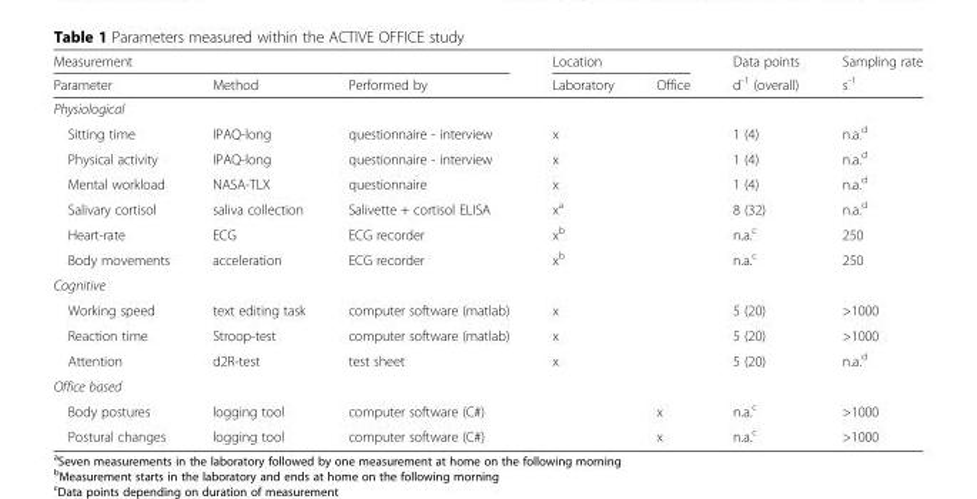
<table><thead><tr><td colspan="3">Measurement</td><td colspan="2">Location</td><td rowspan="2">Data points d<sup>-1</sup> (overall)</td><td rowspan="2">Sampling rate s<sup>-1</sup></td></tr><tr><td>Parameter</td><td>Method</td><td>Performed by</td><td>Laboratory</td><td>Office</td></tr></thead><tbody><tr><td colspan="7">Physiological</td></tr><tr><td>Sitting time</td><td>IPAQ-long</td><td>questionnaire - interview</td><td>x</td><td></td><td>1 (4)</td><td>n.a.<sup>d</sup></td></tr><tr><td>Physical activity</td><td>IPAQ-long</td><td>questionnaire - interview</td><td>x</td><td></td><td>1 (4)</td><td>n.a.<sup>d</sup></td></tr><tr><td>Mental workload</td><td>NASA-TLX</td><td>questionnaire</td><td>x</td><td></td><td>1 (4)</td><td>n.a.<sup>d</sup></td></tr><tr><td>Salivary cortisol</td><td>saliva collection</td><td>Salivette + cortisol ELISA</td><td>x<sup>a</sup></td><td></td><td>8 (32)</td><td>n.a.<sup>d</sup></td></tr><tr><td>Heart-rate</td><td>ECG</td><td>ECG recorder</td><td>x<sup>b</sup></td><td></td><td>n.a.<sup>c</sup></td><td>250</td></tr><tr><td>Body movements</td><td>acceleration</td><td>ECG recorder</td><td>x<sup>b</sup></td><td></td><td>n.a.<sup>c</sup></td><td>250</td></tr><tr><td colspan="7">Cognitive</td></tr><tr><td>Working speed</td><td>text editing task</td><td>computer software (matlab)</td><td>x</td><td></td><td>5 (20)</td><td>&gt;1000</td></tr><tr><td>Reaction time</td><td>Stroop-test</td><td>computer software (matlab)</td><td>x</td><td></td><td>5 (20)</td><td>&gt;1000</td></tr><tr><td>Attention</td><td>d2R-test</td><td>test sheet</td><td>x</td><td></td><td>5 (20)</td><td>n.a.<sup>d</sup></td></tr><tr><td colspan="7">Office based</td></tr><tr><td>Body postures</td><td>logging tool</td><td>computer software (C#)</td><td></td><td>x</td><td>n.a.<sup>c</sup></td><td>&gt;1000</td></tr><tr><td>Postural changes</td><td>logging tool</td><td>computer software (C#)</td><td></td><td>x</td><td>n.a.<sup>c</sup></td><td>&gt;1000</td></tr></tbody></table>